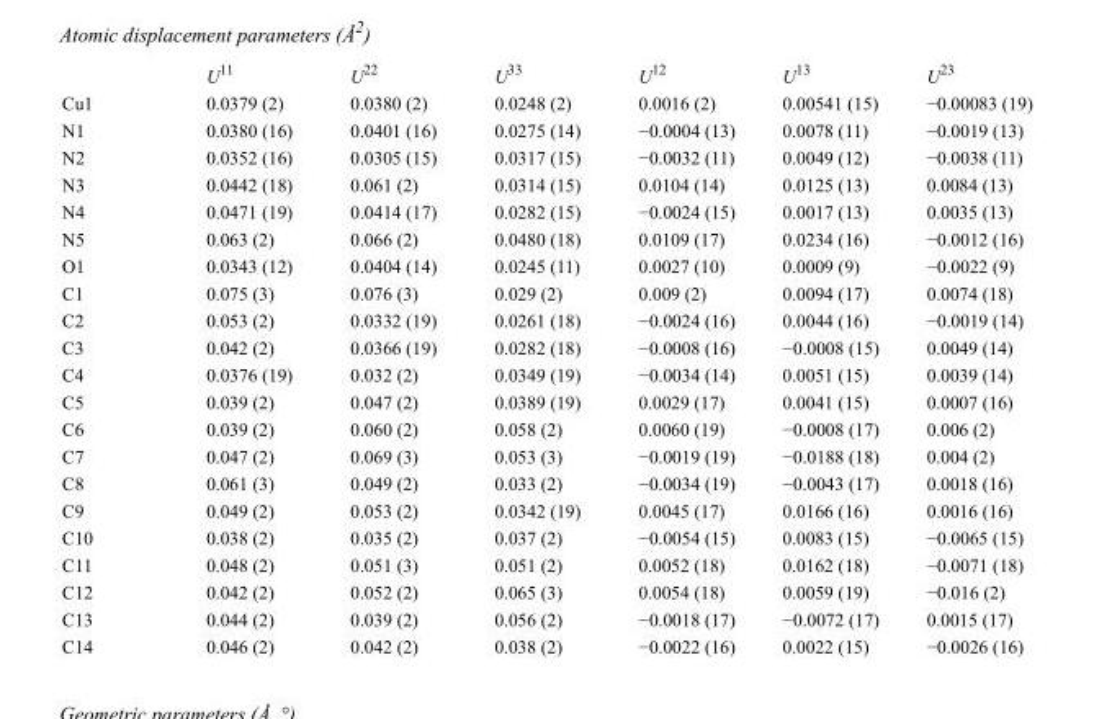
<table><thead><tr><td></td><td>U<sup>11</sup></td><td>U<sup>22</sup></td><td>U<sup>33</sup></td><td>U<sup>12</sup></td><td>U<sup>13</sup></td><td>U<sup>23</sup></td></tr></thead><tbody><tr><td>Cu1</td><td>0.0379 (2)</td><td>0.0380 (2)</td><td>0.0248 (2)</td><td>0.0016 (2)</td><td>0.00541 (15)</td><td>−0.00083 (19)</td></tr><tr><td>N1</td><td>0.0380 (16)</td><td>0.0401 (16)</td><td>0.0275 (14)</td><td>−0.0004 (13)</td><td>0.0078 (11)</td><td>−0.0019 (13)</td></tr><tr><td>N2</td><td>0.0352 (16)</td><td>0.0305 (15)</td><td>0.0317 (15)</td><td>−0.0032 (11)</td><td>0.0049 (12)</td><td>−0.0038 (11)</td></tr><tr><td>N3</td><td>0.0442 (18)</td><td>0.061 (2)</td><td>0.0314 (15)</td><td>0.0104 (14)</td><td>0.0125 (13)</td><td>0.0084 (13)</td></tr><tr><td>N4</td><td>0.0471 (19)</td><td>0.0414 (17)</td><td>0.0282 (15)</td><td>−0.0024 (15)</td><td>0.0017 (13)</td><td>0.0035 (13)</td></tr><tr><td>N5</td><td>0.063 (2)</td><td>0.066 (2)</td><td>0.0480 (18)</td><td>0.0109 (17)</td><td>0.0234 (16)</td><td>−0.0012 (16)</td></tr><tr><td>O1</td><td>0.0343 (12)</td><td>0.0404 (14)</td><td>0.0245 (11)</td><td>0.0027 (10)</td><td>0.0009 (9)</td><td>−0.0022 (9)</td></tr><tr><td>C1</td><td>0.075 (3)</td><td>0.076 (3)</td><td>0.029 (2)</td><td>0.009 (2)</td><td>0.0094 (17)</td><td>0.0074 (18)</td></tr><tr><td>C2</td><td>0.053 (2)</td><td>0.0332 (19)</td><td>0.0261 (18)</td><td>−0.0024 (16)</td><td>0.0044 (16)</td><td>−0.0019 (14)</td></tr><tr><td>C3</td><td>0.042 (2)</td><td>0.0366 (19)</td><td>0.0282 (18)</td><td>−0.0008 (16)</td><td>−0.0008 (15)</td><td>0.0049 (14)</td></tr><tr><td>C4</td><td>0.0376 (19)</td><td>0.032 (2)</td><td>0.0349 (19)</td><td>−0.0034 (14)</td><td>0.0051 (15)</td><td>0.0039 (14)</td></tr><tr><td>C5</td><td>0.039 (2)</td><td>0.047 (2)</td><td>0.0389 (19)</td><td>0.0029 (17)</td><td>0.0041 (15)</td><td>0.0007 (16)</td></tr><tr><td>C6</td><td>0.039 (2)</td><td>0.060 (2)</td><td>0.058 (2)</td><td>0.0060 (19)</td><td>−0.0008 (17)</td><td>0.006 (2)</td></tr><tr><td>C7</td><td>0.047 (2)</td><td>0.069 (3)</td><td>0.053 (3)</td><td>−0.0019 (19)</td><td>−0.0188 (18)</td><td>0.004 (2)</td></tr><tr><td>C8</td><td>0.061 (3)</td><td>0.049 (2)</td><td>0.033 (2)</td><td>−0.0034 (19)</td><td>−0.0043 (17)</td><td>0.0018 (16)</td></tr><tr><td>C9</td><td>0.049 (2)</td><td>0.053 (2)</td><td>0.0342 (19)</td><td>0.0045 (17)</td><td>0.0166 (16)</td><td>0.0016 (16)</td></tr><tr><td>C10</td><td>0.038 (2)</td><td>0.035 (2)</td><td>0.037 (2)</td><td>−0.0054 (15)</td><td>0.0083 (15)</td><td>−0.0065 (15)</td></tr><tr><td>C11</td><td>0.048 (2)</td><td>0.051 (3)</td><td>0.051 (2)</td><td>0.0052 (18)</td><td>0.0162 (18)</td><td>−0.0071 (18)</td></tr><tr><td>C12</td><td>0.042 (2)</td><td>0.052 (2)</td><td>0.065 (3)</td><td>0.0054 (18)</td><td>0.0059 (19)</td><td>−0.016 (2)</td></tr><tr><td>C13</td><td>0.044 (2)</td><td>0.039 (2)</td><td>0.056 (2)</td><td>−0.0018 (17)</td><td>−0.0072 (17)</td><td>0.0015 (17)</td></tr><tr><td>C14</td><td>0.046 (2)</td><td>0.042 (2)</td><td>0.038 (2)</td><td>−0.0022 (16)</td><td>0.0022 (15)</td><td>−0.0026 (16)</td></tr></tbody></table>